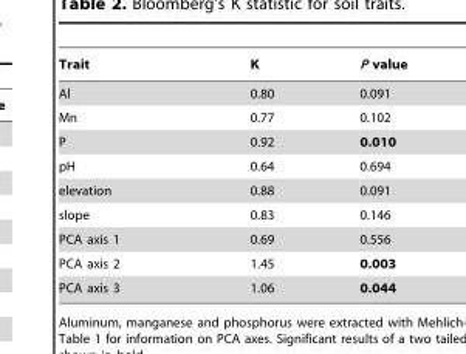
<table><thead><tr><td>Trait</td><td>K</td><td>P value</td></tr></thead><tbody><tr><td>Al</td><td>0.80</td><td>0.091</td></tr><tr><td>Mn</td><td>0.77</td><td>0.102</td></tr><tr><td>P</td><td>0.92</td><td>0.010</td></tr><tr><td>pH</td><td>0.64</td><td>0.694</td></tr><tr><td>elevation</td><td>0.88</td><td>0.091</td></tr><tr><td>slope</td><td>0.83</td><td>0.146</td></tr><tr><td>PCA axis 1</td><td>0.69</td><td>0.556</td></tr><tr><td>PCA axis 2</td><td>1.45</td><td>0.003</td></tr><tr><td>PCA axis 3</td><td>1.06</td><td>0.044</td></tr></tbody></table>